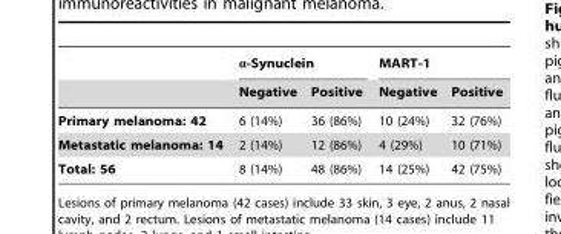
<table><thead><tr><td rowspan="2"></td><td colspan="2">α-Synuclein</td><td colspan="2">MART-1</td></tr><tr><td>Negative</td><td>Positive</td><td>Negative</td><td>Positive</td></tr></thead><tbody><tr><td>Primary melanoma: 42</td><td>6 (14%)</td><td>36 (86%)</td><td>10 (24%)</td><td>32 (76%)</td></tr><tr><td>Metastatic melanoma: 14</td><td>2 (14%)</td><td>12 (86%)</td><td>4 (29%)</td><td>10 (71%)</td></tr><tr><td>Total: 56</td><td>8 (14%)</td><td>48 (86%)</td><td>14 (25%)</td><td>42 (75%)</td></tr></tbody></table>